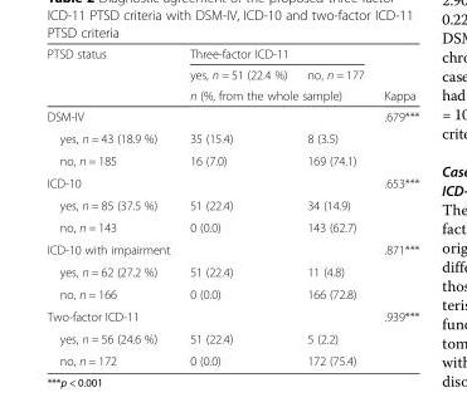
<table><thead><tr><td rowspan="3">PTSD status</td><td colspan="2">Three-factor ICD-11</td><td rowspan="3">Kappa</td></tr><tr><td>yes, n = 51 (22.4 %)</td><td>no, n = 177</td></tr><tr><td colspan="2">n (%, from the whole sample)</td></tr></thead><tbody><tr><td>DSM-IV</td><td></td><td></td><td>.679***</td></tr><tr><td>yes, n = 43 (18.9 %)</td><td>35 (15.4)</td><td>8 (3.5)</td><td></td></tr><tr><td>no, n = 185</td><td>16 (7.0)</td><td>169 (74.1)</td><td></td></tr><tr><td>ICD-10</td><td></td><td></td><td>.653***</td></tr><tr><td>yes, n = 85 (37.5 %)</td><td>51 (22.4)</td><td>34 (14.9)</td><td></td></tr><tr><td>no, n = 143</td><td>0 (0.0)</td><td>143 (62.7)</td><td></td></tr><tr><td>ICD-10 with impairment</td><td></td><td></td><td>.871***</td></tr><tr><td>yes, n = 62 (27.2 %)</td><td>51 (22.4)</td><td>11 (4.8)</td><td></td></tr><tr><td>no, n = 166</td><td>0 (0.0)</td><td>166 (72.8)</td><td></td></tr><tr><td>Two-factor ICD-11</td><td></td><td></td><td>.939***</td></tr><tr><td>yes, n = 56 (24.6 %)</td><td>51 (22.4)</td><td>5 (2.2)</td><td></td></tr><tr><td>no, n = 172</td><td>0 (0.0)</td><td>172 (75.4)</td><td></td></tr></tbody></table>